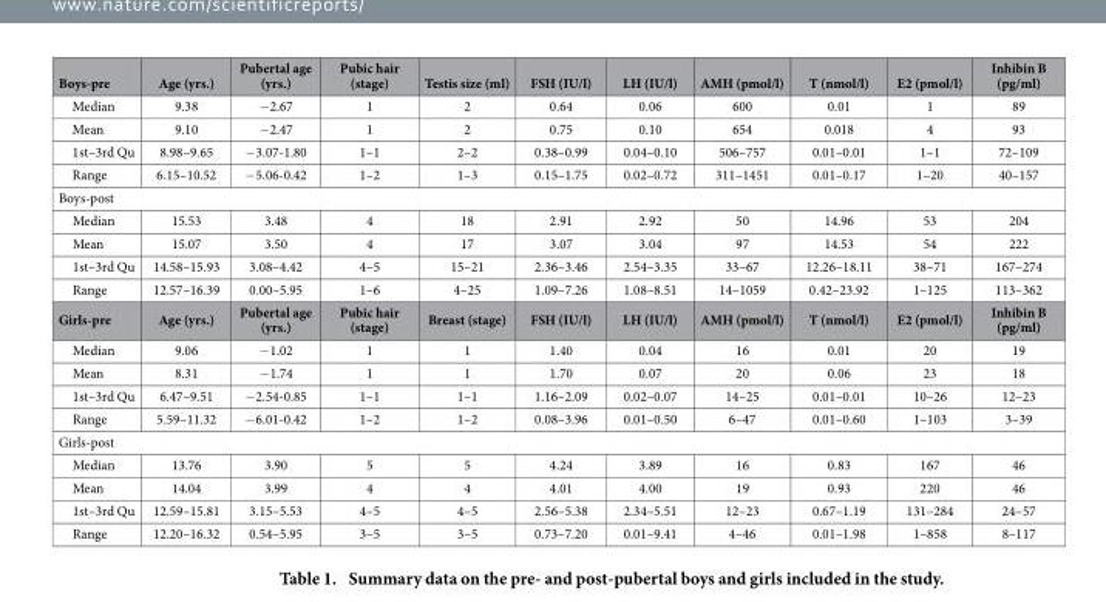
<table><thead><tr><td>Boys-pre</td><td>Age (yrs.)</td><td>Pubertal age (yrs.)</td><td>Pubic hair (stage)</td><td>Testis size (ml)</td><td>FSH (IU/l)</td><td>LH (IU/l)</td><td>AMH (pmol/l)</td><td>T (nmol/l)</td><td>E2 (pmol/l)</td><td>Inhibin B (pg/ml)</td></tr></thead><tbody><tr><td>Median</td><td>9.38</td><td>− 2.67</td><td>1</td><td>2</td><td>0.64</td><td>0.06</td><td>600</td><td>0.01</td><td>1</td><td>89</td></tr><tr><td>Mean</td><td>9.10</td><td>− 2.47</td><td>1</td><td>2</td><td>0.75</td><td>0.10</td><td>654</td><td>0.018</td><td>4</td><td>93</td></tr><tr><td>1st–3rd Qu</td><td>8.98–9.65</td><td>− 3.07-1.80</td><td>1–1</td><td>2–2</td><td>0.38–0.99</td><td>0.04–0.10</td><td>506–757</td><td>0.01–0.01</td><td>1–1</td><td>72–109</td></tr><tr><td>Range</td><td>6.15–10.52</td><td>− 5.06-0.42</td><td>1–2</td><td>1–3</td><td>0.15–1.75</td><td>0.02–0.72</td><td>311–1451</td><td>0.01–0.17</td><td>1–20</td><td>40–157</td></tr><tr><td colspan="11">Boys-post</td></tr><tr><td>Median</td><td>15.53</td><td>3.48</td><td>4</td><td>18</td><td>2.91</td><td>2.92</td><td>50</td><td>14.96</td><td>53</td><td>204</td></tr><tr><td>Mean</td><td>15.07</td><td>3.50</td><td>4</td><td>17</td><td>3.07</td><td>3.04</td><td>97</td><td>14.53</td><td>54</td><td>222</td></tr><tr><td>1st–3rd Qu</td><td>14.58–15.93</td><td>3.08–4.42</td><td>4–5</td><td>15–21</td><td>2.36–3.46</td><td>2.54–3.35</td><td>33–67</td><td>12.26–18.11</td><td>38–71</td><td>167–274</td></tr><tr><td>Range</td><td>12.57–16.39</td><td>0.00–5.95</td><td>1–6</td><td>4–25</td><td>1.09–7.26</td><td>1.08–8.51</td><td>14–1059</td><td>0.42–23.92</td><td>1–125</td><td>113–362</td></tr><tr><td>Girls-pre</td><td>Age (yrs.)</td><td>Pubertal age (yrs.)</td><td>Pubic hair (stage)</td><td>Breast (stage)</td><td>FSH (IU/l)</td><td>LH (IU/l)</td><td>AMH (pmol/l)</td><td>T (nmol/l)</td><td>E2 (pmol/l)</td><td>Inhibin B (pg/ml)</td></tr><tr><td>Median</td><td>9.06</td><td>− 1.02</td><td>1</td><td>1</td><td>1.40</td><td>0.04</td><td>16</td><td>0.01</td><td>20</td><td>19</td></tr><tr><td>Mean</td><td>8.31</td><td>− 1.74</td><td>1</td><td>1</td><td>1.70</td><td>0.07</td><td>20</td><td>0.06</td><td>23</td><td>18</td></tr><tr><td>1st–3rd Qu</td><td>6.47–9.51</td><td>− 2.54-0.85</td><td>1–1</td><td>1–1</td><td>1.16–2.09</td><td>0.02–0.07</td><td>14–25</td><td>0.01–0.01</td><td>10–26</td><td>12–23</td></tr><tr><td>Range</td><td>5.59–11.32</td><td>− 6.01-0.42</td><td>1–2</td><td>1–2</td><td>0.08–3.96</td><td>0.01–0.50</td><td>6–47</td><td>0.01–0.60</td><td>1–103</td><td>3–39</td></tr><tr><td colspan="11">Girls-post</td></tr><tr><td>Median</td><td>13.76</td><td>3.90</td><td>5</td><td>5</td><td>4.24</td><td>3.89</td><td>16</td><td>0.83</td><td>167</td><td>46</td></tr><tr><td>Mean</td><td>14.04</td><td>3.99</td><td>4</td><td>4</td><td>4.01</td><td>4.00</td><td>19</td><td>0.93</td><td>220</td><td>46</td></tr><tr><td>1st–3rd Qu</td><td>12.59–15.81</td><td>3.15–5.53</td><td>4–5</td><td>4–5</td><td>2.56–5.38</td><td>2.34–5.51</td><td>12–23</td><td>0.67–1.19</td><td>131–284</td><td>24–57</td></tr><tr><td>Range</td><td>12.20–16.32</td><td>0.54–5.95</td><td>3–5</td><td>3–5</td><td>0.73–7.20</td><td>0.01–9.41</td><td>4–46</td><td>0.01–1.98</td><td>1–858</td><td>8–117</td></tr></tbody></table>